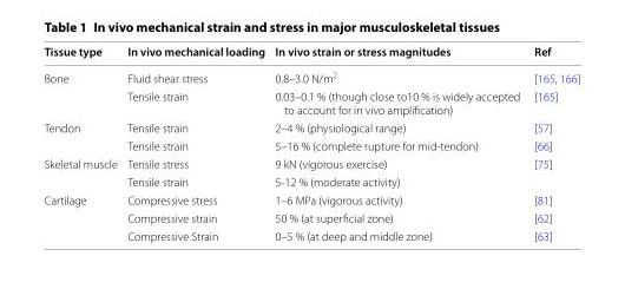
<table><thead><tr><td>Tissue type</td><td>In vivo mechanical loading</td><td>In vivo strain or stress magnitudes</td><td>Ref</td></tr></thead><tbody><tr><td rowspan="2">Bone</td><td>Fluid shear stress</td><td>0.8–3.0 N/m<sup>2</sup></td><td>[165, 166]</td></tr><tr><td>Tensile strain</td><td>0.03–0.1 % (though close to10 % is widely accepted to account for in vivo amplification)</td><td>[165]</td></tr><tr><td rowspan="2">Tendon</td><td>Tensile strain</td><td>2–4 % (physiological range)</td><td>[57]</td></tr><tr><td>Tensile strain</td><td>5–16 % (complete rupture for mid‑tendon)</td><td>[66]</td></tr><tr><td rowspan="2">Skeletal muscle</td><td>Tensile stress</td><td>9 kN (vigorous exercise)</td><td>[75]</td></tr><tr><td>Tensile strain</td><td>5‑12 % (moderate activity)</td><td></td></tr><tr><td rowspan="3">Cartilage</td><td>Compressive stress</td><td>1–6 MPa (vigorous activity)</td><td>[81]</td></tr><tr><td>Compressive strain</td><td>50 % (at superficial zone)</td><td>[62]</td></tr><tr><td>Compressive Strain</td><td>0–5 % (at deep and middle zone)</td><td>[63]</td></tr></tbody></table>